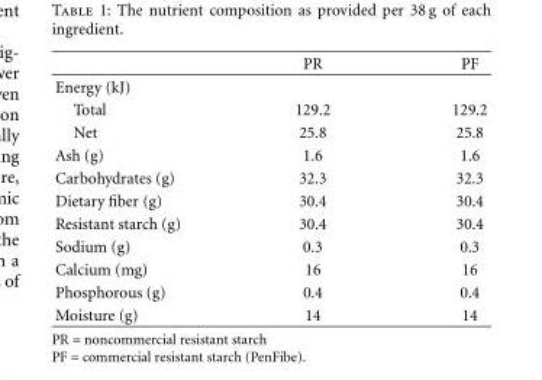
<table><thead><tr><td></td><td>PR</td><td>PF</td></tr></thead><tbody><tr><td colspan="3">Energy (kJ)</td></tr><tr><td>Total</td><td>129.2</td><td>129.2</td></tr><tr><td>Net</td><td>25.8</td><td>25.8</td></tr><tr><td>Ash (g)</td><td>1.6</td><td>1.6</td></tr><tr><td>Carbohydrates (g)</td><td>32.3</td><td>32.3</td></tr><tr><td>Dietary fiber (g)</td><td>30.4</td><td>30.4</td></tr><tr><td>Resistant starch (g)</td><td>30.4</td><td>30.4</td></tr><tr><td>Sodium (g)</td><td>0.3</td><td>0.3</td></tr><tr><td>Calcium (mg)</td><td>16</td><td>16</td></tr><tr><td>Phosphorous (g)</td><td>0.4</td><td>0.4</td></tr><tr><td>Moisture (g)</td><td>14</td><td>14</td></tr></tbody></table>